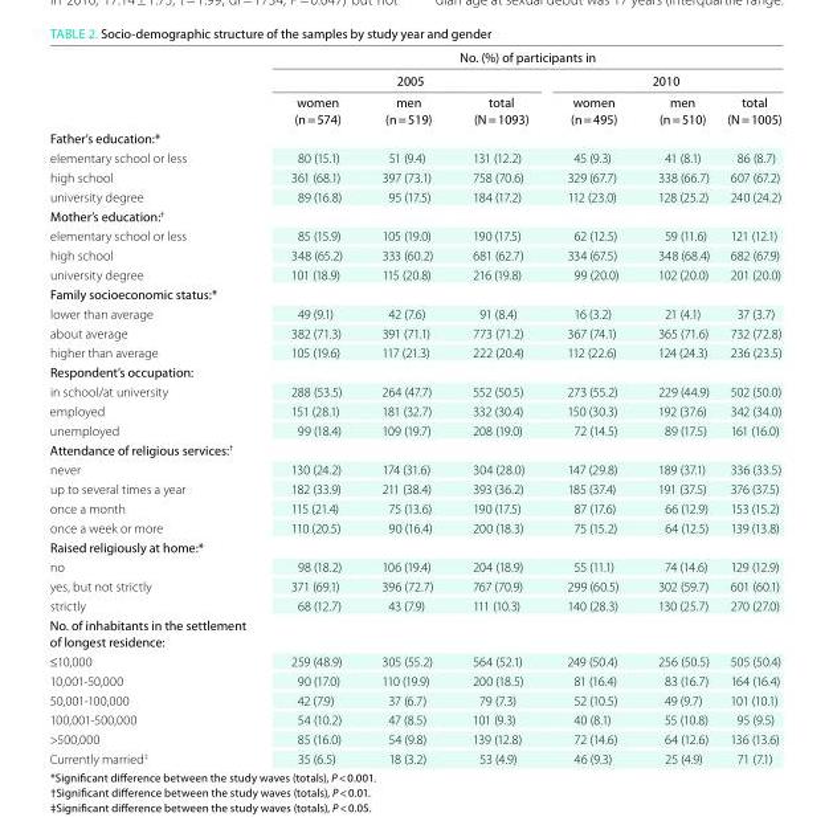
<table><thead><tr><td rowspan="3"></td><td colspan="6">No. (%) of participants in</td></tr><tr><td colspan="3">2005</td><td colspan="3">2010</td></tr><tr><td>women (n = 574)</td><td>men (n = 519)</td><td>total (N = 1093)</td><td>women (n = 495)</td><td>men (n = 510)</td><td>total (N = 1005)</td></tr></thead><tbody><tr><td colspan="7">Father’s education:*</td></tr><tr><td>elementary school or less</td><td>80 (15.1)</td><td>51 (9.4)</td><td>131 (12.2)</td><td>45 (9.3)</td><td>41 (8.1)</td><td>86 (8.7)</td></tr><tr><td>high school</td><td>361 (68.1)</td><td>397 (73.1)</td><td>758 (70.6)</td><td>329 (67.7)</td><td>338 (66.7)</td><td>607 (67.2)</td></tr><tr><td>university degree</td><td>89 (16.8)</td><td>95 (17.5)</td><td>184 (17.2)</td><td>112 (23.0)</td><td>128 (25.2)</td><td>240 (24.2)</td></tr><tr><td colspan="7">Mother’s education:<sup>†</sup></td></tr><tr><td>elementary school or less</td><td>85 (15.9)</td><td>105 (19.0)</td><td>190 (17.5)</td><td>62 (12.5)</td><td>59 (11.6)</td><td>121 (12.1)</td></tr><tr><td>high school</td><td>348 (65.2)</td><td>333 (60.2)</td><td>681 (62.7)</td><td>334 (67.5)</td><td>348 (68.4)</td><td>682 (67.9)</td></tr><tr><td>university degree</td><td>101 (18.9)</td><td>115 (20.8)</td><td>216 (19.8)</td><td>99 (20.0)</td><td>102 (20.0)</td><td>201 (20.0)</td></tr><tr><td colspan="7">Family socioeconomic status:*</td></tr><tr><td>lower than average</td><td>49 (9.1)</td><td>42 (7.6)</td><td>91 (8.4)</td><td>16 (3.2)</td><td>21 (4.1)</td><td>37 (3.7)</td></tr><tr><td>about average</td><td>382 (71.3)</td><td>391 (71.1)</td><td>773 (71.2)</td><td>367 (74.1)</td><td>365 (71.6)</td><td>732 (72.8)</td></tr><tr><td>higher than average</td><td>105 (19.6)</td><td>117 (21.3)</td><td>222 (20.4)</td><td>112 (22.6)</td><td>124 (24.3)</td><td>236 (23.5)</td></tr><tr><td colspan="7">Respondent’s occupation:</td></tr><tr><td>in school/at university</td><td>288 (53.5)</td><td>264 (47.7)</td><td>552 (50.5)</td><td>273 (55.2)</td><td>229 (44.9)</td><td>502 (50.0)</td></tr><tr><td>employed</td><td>151 (28.1)</td><td>181 (32.7)</td><td>332 (30.4)</td><td>150 (30.3)</td><td>192 (37.6)</td><td>342 (34.0)</td></tr><tr><td>unemployed</td><td>99 (18.4)</td><td>109 (19.7)</td><td>208 (19.0)</td><td>72 (14.5)</td><td>89 (17.5)</td><td>161 (16.0)</td></tr><tr><td colspan="7">Attendance of religious services:<sup>†</sup></td></tr><tr><td>never</td><td>130 (24.2)</td><td>174 (31.6)</td><td>304 (28.0)</td><td>147 (29.8)</td><td>189 (37.1)</td><td>336 (33.5)</td></tr><tr><td>up to several times a year</td><td>182 (33.9)</td><td>211 (38.4)</td><td>393 (36.2)</td><td>185 (37.4)</td><td>191 (37.5)</td><td>376 (37.5)</td></tr><tr><td>once a month</td><td>115 (21.4)</td><td>75 (13.6)</td><td>190 (17.5)</td><td>87 (17.6)</td><td>66 (12.9)</td><td>153 (15.2)</td></tr><tr><td>once a week or more</td><td>110 (20.5)</td><td>90 (16.4)</td><td>200 (18.3)</td><td>75 (15.2)</td><td>64 (12.5)</td><td>139 (13.8)</td></tr><tr><td colspan="7">Raised religiously at home:*</td></tr><tr><td>no</td><td>98 (18.2)</td><td>106 (19.4)</td><td>204 (18.9)</td><td>55 (11.1)</td><td>74 (14.6)</td><td>129 (12.9)</td></tr><tr><td>yes, but not strictly</td><td>371 (69.1)</td><td>396 (72.7)</td><td>767 (70.9)</td><td>299 (60.5)</td><td>302 (59.7)</td><td>601 (60.1)</td></tr><tr><td>strictly</td><td>68 (12.7)</td><td>43 (7.9)</td><td>111 (10.3)</td><td>140 (28.3)</td><td>130 (25.7)</td><td>270 (27.0)</td></tr><tr><td colspan="7">No. of inhabitants in the settlement of longest residence:</td></tr><tr><td>≤10,000</td><td>259 (48.9)</td><td>305 (55.2)</td><td>564 (52.1)</td><td>249 (50.4)</td><td>256 (50.5)</td><td>505 (50.4)</td></tr><tr><td>10,001-50,000</td><td>90 (17.0)</td><td>110 (19.9)</td><td>200 (18.5)</td><td>81 (16.4)</td><td>83 (16.7)</td><td>164 (16.4)</td></tr><tr><td>50,001-100,000</td><td>42 (7.9)</td><td>37 (6.7)</td><td>79 (7.3)</td><td>52 (10.5)</td><td>49 (9.7)</td><td>101 (10.1)</td></tr><tr><td>100,001-500,000</td><td>54 (10.2)</td><td>47 (8.5)</td><td>101 (9.3)</td><td>40 (8.1)</td><td>55 (10.8)</td><td>95 (9.5)</td></tr><tr><td>&gt;500,000</td><td>85 (16.0)</td><td>54 (9.8)</td><td>139 (12.8)</td><td>72 (14.6)</td><td>64 (12.6)</td><td>136 (13.6)</td></tr><tr><td>Currently married<sup>‡</sup></td><td>35 (6.5)</td><td>18 (3.2)</td><td>53 (4.9)</td><td>46 (9.3)</td><td>25 (4.9)</td><td>71 (7.1)</td></tr></tbody></table>